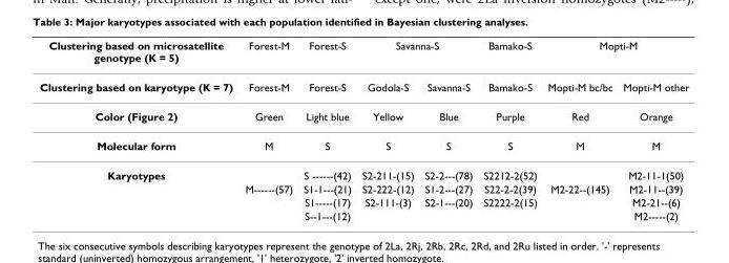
<table><thead><tr><td rowspan="2">Clustering based on microsatellite genotype (K = 5) Clustering based on karyotype (K = 7)</td><td rowspan="2">Forest-M Forest-M</td><td rowspan="2">Forest-S Forest-S</td><td colspan="2">Savanna-S</td><td rowspan="2">Bamako-S Bamako-S</td><td colspan="2">Mopti-M</td></tr><tr><td>Godola-S</td><td>Savanna-S</td><td>Mopti-M bc/bc</td><td>Mopti-M other</td></tr></thead><tbody><tr><td>Color (Figure 2)</td><td>Green</td><td>Light blue</td><td>Yellow</td><td>Blue</td><td>Purple</td><td>Red</td><td>Orange</td></tr><tr><td>Molecular form</td><td>M</td><td>S</td><td>S</td><td>S</td><td>S</td><td>M</td><td>M</td></tr><tr><td rowspan="4">Karyotypes</td><td></td><td>S ------(42)</td><td>S2-211-(15)</td><td>S2-2---(78)</td><td>S2212-2(52)</td><td></td><td>M2-11-1(50)</td></tr><tr><td>M------(57)</td><td>S1-1---(21)</td><td>S2-222-(12)</td><td>S1-2---(27)</td><td>S22-2-2(39)</td><td>M2-22--(145)</td><td>M2-11--(39)</td></tr><tr><td></td><td>S1-----(17)</td><td>S2-111-(3)</td><td>S2-1---(20)</td><td>S2222-2(15)</td><td></td><td>M2-21--(6)</td></tr><tr><td></td><td>S--1---(12)</td><td></td><td></td><td></td><td></td><td>M2-----(2)</td></tr></tbody></table>